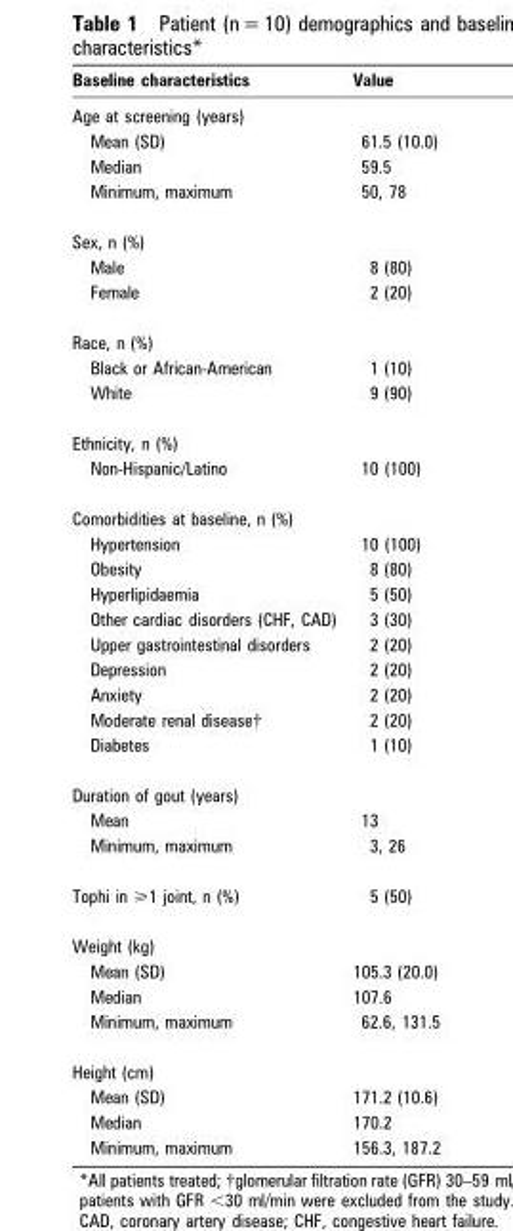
<table><thead><tr><td>Baseline characteristics</td><td>Value</td></tr></thead><tbody><tr><td colspan="2">Age at screening (years)</td></tr><tr><td>Mean (SD)</td><td>61.5 (10.0)</td></tr><tr><td>Median</td><td>59.5</td></tr><tr><td>Minimum, maximum</td><td>50, 78</td></tr><tr><td colspan="2">Sex, n (%)</td></tr><tr><td>Male</td><td>8 (80)</td></tr><tr><td>Female</td><td>2 (20)</td></tr><tr><td colspan="2">Race, n (%)</td></tr><tr><td>Black or African-American</td><td>1 (10)</td></tr><tr><td>White</td><td>9 (90)</td></tr><tr><td colspan="2">Ethnicity, n (%)</td></tr><tr><td>Non-Hispanic/Latino</td><td>10 (100)</td></tr><tr><td colspan="2">Comorbidities at baseline, n (%)</td></tr><tr><td>Hypertension</td><td>10 (100)</td></tr><tr><td>Obesity</td><td>8 (80)</td></tr><tr><td>Hyperlipidaemia</td><td>5 (50)</td></tr><tr><td>Other cardiac disorders (CHF, CAD)</td><td>3 (30)</td></tr><tr><td>Upper gastrointestinal disorders</td><td>2 (20)</td></tr><tr><td>Depression</td><td>2 (20)</td></tr><tr><td>Anxiety</td><td>2 (20)</td></tr><tr><td>Moderate renal disease†</td><td>2 (20)</td></tr><tr><td>Diabetes</td><td>1 (10)</td></tr><tr><td colspan="2">Duration of gout (years)</td></tr><tr><td>Mean</td><td>13</td></tr><tr><td>Minimum, maximum</td><td>3, 26</td></tr><tr><td>Tophi in &gt;1 joint, n (%)</td><td>5 (50)</td></tr><tr><td colspan="2">Weight (kg)</td></tr><tr><td>Mean (SD)</td><td>105.3 (20.0)</td></tr><tr><td>Median</td><td>107.6</td></tr><tr><td>Minimum, maximum</td><td>62.6, 131.5</td></tr><tr><td colspan="2">Height (cm)</td></tr><tr><td>Mean (SD)</td><td>171.2 (10.6)</td></tr><tr><td>Median</td><td>170.2</td></tr><tr><td>Minimum, maximum</td><td>156.3, 187.2</td></tr></tbody></table>